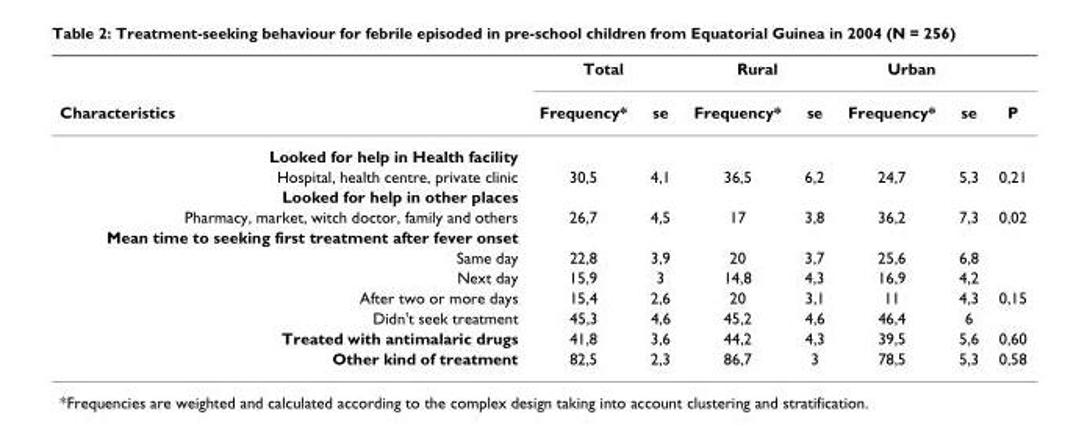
<table><thead><tr><td rowspan="2">Characteristics</td><td colspan="2">Total</td><td colspan="2">Rural</td><td colspan="2">Urban</td><td rowspan="2">P</td></tr><tr><td>Frequency*</td><td>se</td><td>Frequency*</td><td>se</td><td>Frequency*</td><td>se</td></tr></thead><tbody><tr><td colspan="8">Looked for help in Health facility</td></tr><tr><td>Hospital, health centre, private clinic</td><td>30,5</td><td>4,1</td><td>36,5</td><td>6,2</td><td>24,7</td><td>5,3</td><td>0,21</td></tr><tr><td colspan="8">Looked for help in other places</td></tr><tr><td>Pharmacy, market, witch doctor, family and others</td><td>26,7</td><td>4,5</td><td>17</td><td>3,8</td><td>36,2</td><td>7,3</td><td>0,02</td></tr><tr><td colspan="8">Mean time to seeking first treatment after fever onset</td></tr><tr><td>Same day</td><td>22,8</td><td>3,9</td><td>20</td><td>3,7</td><td>25,6</td><td>6,8</td><td></td></tr><tr><td>Next day</td><td>15,9</td><td>3</td><td>14,8</td><td>4,3</td><td>16,9</td><td>4,2</td><td></td></tr><tr><td>After two or more days</td><td>15,4</td><td>2,6</td><td>20</td><td>3,1</td><td>11</td><td>4,3</td><td>0,15</td></tr><tr><td>Didn&#x27;t seek treatment</td><td>45,3</td><td>4,6</td><td>45,2</td><td>4,6</td><td>46,4</td><td>6</td><td></td></tr><tr><td>Treated with antimalaric drugs</td><td>41,8</td><td>3,6</td><td>44,2</td><td>4,3</td><td>39,5</td><td>5,6</td><td>0,60</td></tr><tr><td>Other kind of treatment</td><td>82,5</td><td>2,3</td><td>86,7</td><td>3</td><td>78,5</td><td>5,3</td><td>0,58</td></tr></tbody></table>